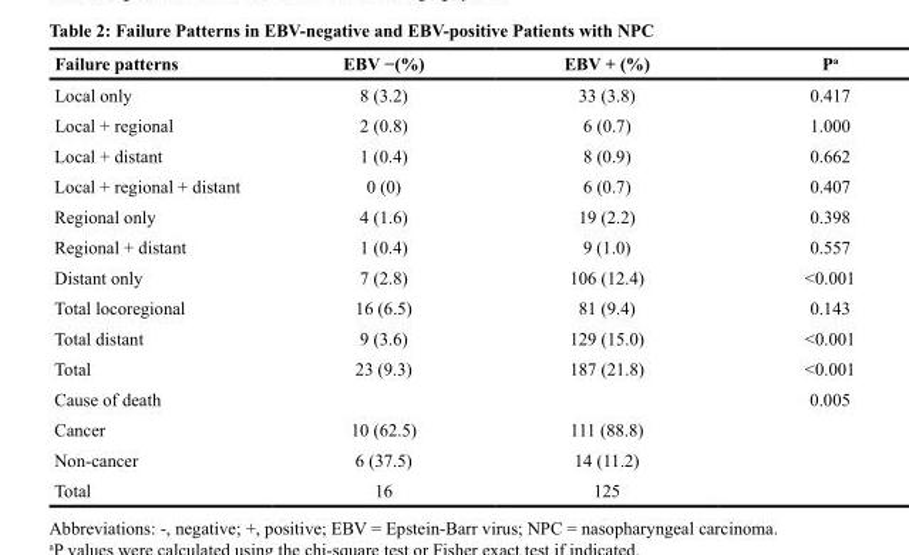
<table><thead><tr><td>Failure patterns</td><td>EBV −(%)</td><td>EBV + (%)</td><td>P<sup>a</sup></td></tr></thead><tbody><tr><td>Local only</td><td>8 (3.2)</td><td>33 (3.8)</td><td>0.417</td></tr><tr><td>Local + regional</td><td>2 (0.8)</td><td>6 (0.7)</td><td>1.000</td></tr><tr><td>Local + distant</td><td>1 (0.4)</td><td>8 (0.9)</td><td>0.662</td></tr><tr><td>Local + regional + distant</td><td>0 (0)</td><td>6 (0.7)</td><td>0.407</td></tr><tr><td>Regional only</td><td>4 (1.6)</td><td>19 (2.2)</td><td>0.398</td></tr><tr><td>Regional + distant</td><td>1 (0.4)</td><td>9 (1.0)</td><td>0.557</td></tr><tr><td>Distant only</td><td>7 (2.8)</td><td>106 (12.4)</td><td>&lt;0.001</td></tr><tr><td>Total locoregional</td><td>16 (6.5)</td><td>81 (9.4)</td><td>0.143</td></tr><tr><td>Total distant</td><td>9 (3.6)</td><td>129 (15.0)</td><td>&lt;0.001</td></tr><tr><td>Total</td><td>23 (9.3)</td><td>187 (21.8)</td><td>&lt;0.001</td></tr><tr><td>Cause of death</td><td></td><td></td><td>0.005</td></tr><tr><td>Cancer</td><td>10 (62.5)</td><td>111 (88.8)</td><td></td></tr><tr><td>Non-cancer</td><td>6 (37.5)</td><td>14 (11.2)</td><td></td></tr><tr><td>Total</td><td>16</td><td>125</td><td></td></tr></tbody></table>